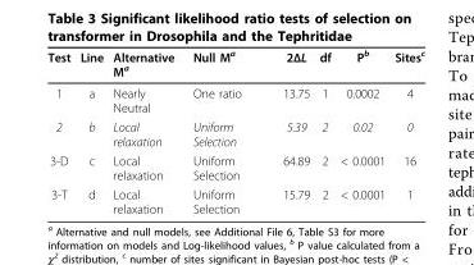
<table><thead><tr><td>Test</td><td>Line</td><td>Alternative M<sup>a</sup></td><td>Null M<sup>a</sup></td><td>2ΔL</td><td>df</td><td>P<sup>b</sup></td><td>Sites<sup>c</sup></td></tr></thead><tbody><tr><td>1</td><td>a</td><td>Nearly Neutral</td><td>One ratio</td><td>13.75</td><td>1</td><td>0.0002</td><td>4</td></tr><tr><td>2</td><td>b</td><td>Local relaxation</td><td>Uniform Selection</td><td>5.39</td><td>2</td><td>0.02</td><td>0</td></tr><tr><td>3-D</td><td>c</td><td>Local relaxation</td><td>Uniform Selection</td><td>64.89</td><td>2</td><td>&lt; 0.0001</td><td>16</td></tr><tr><td>3-T</td><td>d</td><td>Local relaxation</td><td>Uniform Selection</td><td>15.79</td><td>2</td><td>&lt; 0.0001</td><td>1</td></tr></tbody></table>